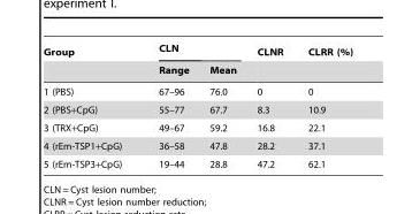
<table><thead><tr><td rowspan="2">Group</td><td rowspan="2">CLN Range</td><td rowspan="2">Mean</td><td rowspan="2">CLNR</td><td rowspan="2">CLRR (%)</td></tr><tr></tr></thead><tbody><tr><td>1 (PBS)</td><td>67–96</td><td>76.0</td><td>0</td><td>0</td></tr><tr><td>2 (PBS+CpG)</td><td>55–77</td><td>67.7</td><td>8.3</td><td>10.9</td></tr><tr><td>3 (TRX+CpG)</td><td>49–67</td><td>59.2</td><td>16.8</td><td>22.1</td></tr><tr><td>4 (rEm-TSP1+CpG)</td><td>36–58</td><td>47.8</td><td>28.2</td><td>37.1</td></tr><tr><td>5 (rEm-TSP3+CpG)</td><td>19–44</td><td>28.8</td><td>47.2</td><td>62.1</td></tr></tbody></table>